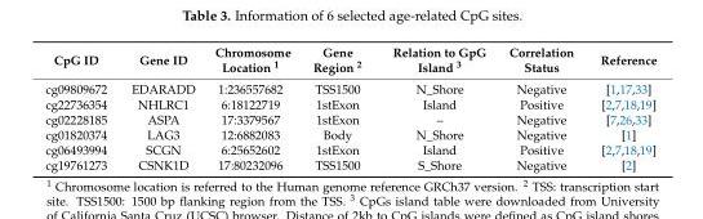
<table><thead><tr><td>CpG ID</td><td>Gene ID</td><td>Chromosome Location <sup>1</sup></td><td>Gene Region <sup>2</sup></td><td>Relation to GpG Island <sup>3</sup></td><td>Correlation Status</td><td>Reference</td></tr></thead><tbody><tr><td>cg09809672</td><td>EDARADD</td><td>1:236557682</td><td>TSS1500</td><td>N_Shore</td><td>Negative</td><td>[1,17,33]</td></tr><tr><td>cg22736354</td><td>NHLRC1</td><td>6:18122719</td><td>1stExon</td><td>Island</td><td>Positive</td><td>[2,7,18,19]</td></tr><tr><td>cg02228185</td><td>ASPA</td><td>17:3379567</td><td>1stExon</td><td>–</td><td>Negative</td><td>[7,26,33]</td></tr><tr><td>cg01820374</td><td>LAG3</td><td>12:6882083</td><td>Body</td><td>N_Shore</td><td>Negative</td><td>[1]</td></tr><tr><td>cg06493994</td><td>SCGN</td><td>6:25652602</td><td>1stExon</td><td>Island</td><td>Positive</td><td>[2,7,18,19]</td></tr><tr><td>cg19761273</td><td>CSNK1D</td><td>17:80232096</td><td>TSS1500</td><td>S_Shore</td><td>Negative</td><td>[2]</td></tr></tbody></table>